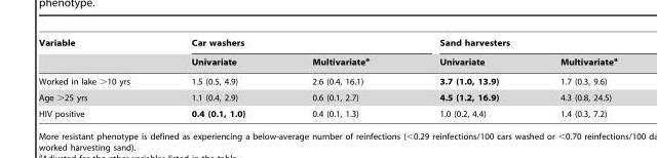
<table><thead><tr><td rowspan="2">Variable</td><td colspan="2">Car washers</td><td colspan="2">Sand harvesters</td></tr><tr><td>Univariate</td><td>Multivariate<sup>a</sup></td><td>Univariate</td><td>Multivariate<sup>a</sup></td></tr></thead><tbody><tr><td>Worked in lake &gt;10 yrs</td><td>1.5 (0.5, 4.9)</td><td>2.6 (0.4, 16.1)</td><td>3.7 (1.0, 13.9)</td><td>1.7 (0.3, 9.6)</td></tr><tr><td>Age &gt;25 yrs</td><td>1.1 (0.4, 2.9)</td><td>0.6 (0.1, 2.7)</td><td>4.5 (1.2, 16.9)</td><td>4.3 (0.8, 24.5)</td></tr><tr><td>HIV positive</td><td>0.4 (0.1, 1.0)</td><td>0.4 (0.1, 1.3)</td><td>1.0 (0.2, 4.4)</td><td>1.4 (0.3, 7.2)</td></tr></tbody></table>